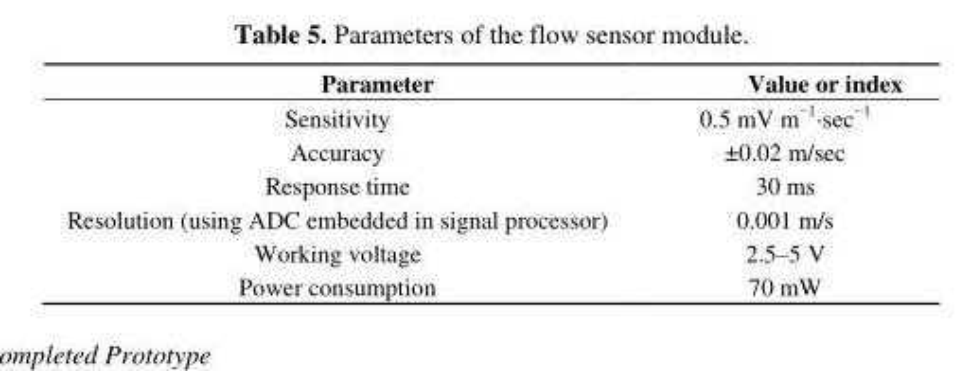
<table><thead><tr><td>Parameter</td><td>Value or index</td></tr></thead><tbody><tr><td>Sensitivity</td><td>0.5 mV m<sup>−1</sup>·sec<sup>−1</sup></td></tr><tr><td>Accuracy</td><td>±0.02 m/sec</td></tr><tr><td>Response time</td><td>30 ms</td></tr><tr><td>Resolution (using ADC embedded in signal processor)</td><td>0.001 m/s</td></tr><tr><td>Working voltage</td><td>2.5–5 V</td></tr><tr><td>Power consumption</td><td>70 mW</td></tr></tbody></table>